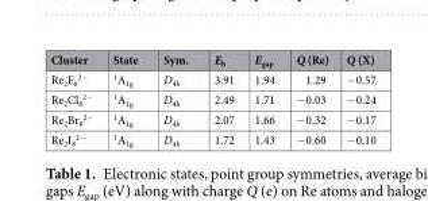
<table><thead><tr><td>Cluster</td><td>State</td><td>Sym.</td><td>E<sub>b</sub></td><td>E<sub>gap</sub></td><td>Q (Re)</td><td>Q (X)</td></tr></thead><tbody><tr><td>Re<sub>2</sub>F<sub>8</sub> <sup>2−</sup></td><td><sup>1</sup>A<sub>1g</sub></td><td>D<sub>4h</sub></td><td>3.91</td><td>1.94</td><td>1.29</td><td>−0.57</td></tr><tr><td>Re<sub>2</sub>Cl<sub>8</sub> <sup>2−</sup></td><td><sup>1</sup>A<sub>1g</sub></td><td>D<sub>4h</sub></td><td>2.49</td><td>1.71</td><td>−0.03</td><td>−0.24</td></tr><tr><td>Re<sub>2</sub>Br<sub>8</sub> <sup>2−</sup></td><td><sup>1</sup>A<sub>1g</sub></td><td>D<sub>4h</sub></td><td>2.07</td><td>1.66</td><td>−0.32</td><td>−0.17</td></tr><tr><td>Re<sub>2</sub>I<sub>8</sub> <sup>2−</sup></td><td><sup>1</sup>A<sub>1g</sub></td><td>D<sub>4h</sub></td><td>1.72</td><td>1.43</td><td>−0.60</td><td>−0.10</td></tr></tbody></table>